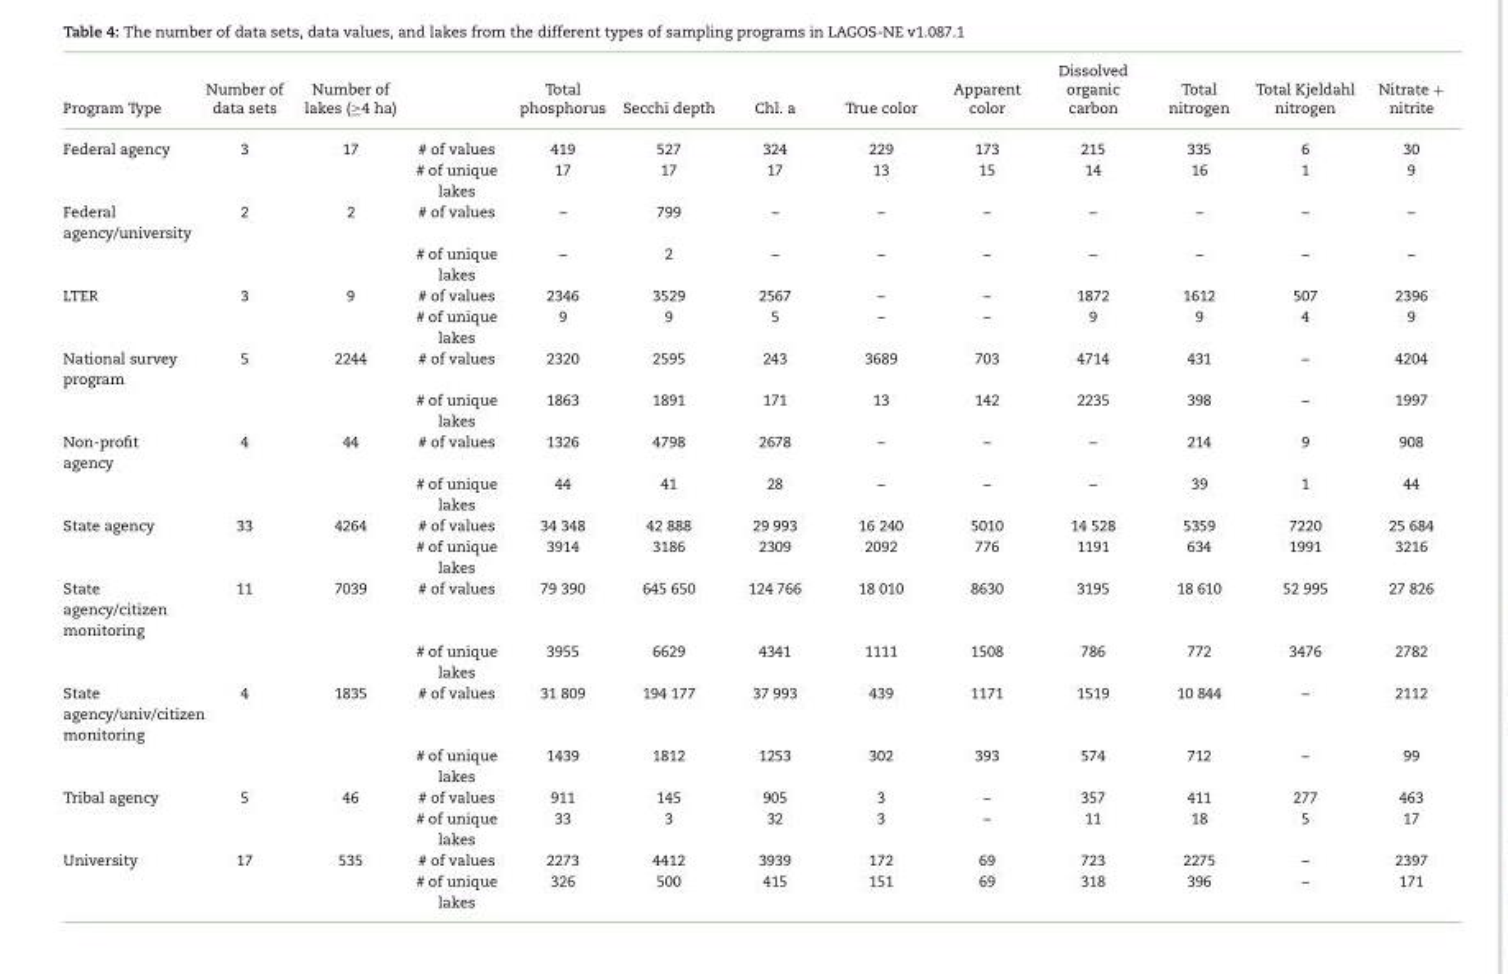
<table><thead><tr><td>Program Type</td><td>Number of data sets</td><td>Number of lakes (≥4 ha)</td><td></td><td>Total phosphorus</td><td>Secchi depth</td><td>Chl. a</td><td>True color</td><td>Apparent color</td><td>Dissolved organic carbon</td><td>Total nitrogen</td><td>Total Kjeldahl nitrogen</td><td>Nitrate + nitrite</td></tr></thead><tbody><tr><td rowspan="2">Federal agency</td><td>3</td><td>17</td><td># of values</td><td>419</td><td>527</td><td>324</td><td>229</td><td>173</td><td>215</td><td>335</td><td>6</td><td>30</td></tr><tr><td></td><td></td><td># of unique lakes</td><td>17</td><td>17</td><td>17</td><td>13</td><td>15</td><td>14</td><td>16</td><td>1</td><td>9</td></tr><tr><td rowspan="2">Federal agency/university</td><td>2</td><td>2</td><td># of values</td><td>–</td><td>799</td><td>–</td><td>–</td><td>–</td><td>–</td><td>–</td><td>–</td><td>–</td></tr><tr><td></td><td></td><td># of unique lakes</td><td>–</td><td>2</td><td>–</td><td>–</td><td>–</td><td>–</td><td>–</td><td>–</td><td>–</td></tr><tr><td rowspan="2">LTER</td><td>3</td><td>9</td><td># of values</td><td>2346</td><td>3529</td><td>2567</td><td>–</td><td>–</td><td>1872</td><td>1612</td><td>507</td><td>2396</td></tr><tr><td></td><td></td><td># of unique lakes</td><td>9</td><td>9</td><td>5</td><td>–</td><td>–</td><td>9</td><td>9</td><td>4</td><td>9</td></tr><tr><td rowspan="2">National survey program</td><td>5</td><td>2244</td><td># of values</td><td>2320</td><td>2595</td><td>243</td><td>3689</td><td>703</td><td>4714</td><td>431</td><td>–</td><td>4204</td></tr><tr><td></td><td></td><td># of unique lakes</td><td>1863</td><td>1891</td><td>171</td><td>13</td><td>142</td><td>2235</td><td>398</td><td>–</td><td>1997</td></tr><tr><td rowspan="2">Non-profit agency</td><td>4</td><td>44</td><td># of values</td><td>1326</td><td>4798</td><td>2678</td><td>–</td><td>–</td><td>–</td><td>214</td><td>9</td><td>908</td></tr><tr><td></td><td></td><td># of unique lakes</td><td>44</td><td>41</td><td>28</td><td>–</td><td>–</td><td>–</td><td>39</td><td>1</td><td>44</td></tr><tr><td rowspan="2">State agency</td><td>33</td><td>4264</td><td># of values</td><td>34 348</td><td>42 888</td><td>29 993</td><td>16 240</td><td>5010</td><td>14 528</td><td>5359</td><td>7220</td><td>25 684</td></tr><tr><td></td><td></td><td># of unique lakes</td><td>3914</td><td>3186</td><td>2309</td><td>2092</td><td>776</td><td>1191</td><td>634</td><td>1991</td><td>3216</td></tr><tr><td rowspan="2">State agency/citizen monitoring</td><td>11</td><td>7039</td><td># of values</td><td>79 390</td><td>645 650</td><td>124 766</td><td>18 010</td><td>8630</td><td>3195</td><td>18 610</td><td>52 995</td><td>27 826</td></tr><tr><td></td><td></td><td># of unique lakes</td><td>3955</td><td>6629</td><td>4341</td><td>1111</td><td>1508</td><td>786</td><td>772</td><td>3476</td><td>2782</td></tr><tr><td rowspan="2">State agency/univ/citizen monitoring</td><td>4</td><td>1835</td><td># of values</td><td>31 809</td><td>194 177</td><td>37 993</td><td>439</td><td>1171</td><td>1519</td><td>10 844</td><td>–</td><td>2112</td></tr><tr><td></td><td></td><td># of unique lakes</td><td>1439</td><td>1812</td><td>1253</td><td>302</td><td>393</td><td>574</td><td>712</td><td>–</td><td>99</td></tr><tr><td rowspan="2">Tribal agency</td><td>5</td><td>46</td><td># of values</td><td>911</td><td>145</td><td>905</td><td>3</td><td>–</td><td>357</td><td>411</td><td>277</td><td>463</td></tr><tr><td></td><td></td><td># of unique lakes</td><td>33</td><td>3</td><td>32</td><td>3</td><td>–</td><td>11</td><td>18</td><td>5</td><td>17</td></tr><tr><td rowspan="2">University</td><td>17</td><td>535</td><td># of values</td><td>2273</td><td>4412</td><td>3939</td><td>172</td><td>69</td><td>723</td><td>2275</td><td>–</td><td>2397</td></tr><tr><td></td><td></td><td># of unique lakes</td><td>326</td><td>500</td><td>415</td><td>151</td><td>69</td><td>318</td><td>396</td><td>–</td><td>171</td></tr></tbody></table>